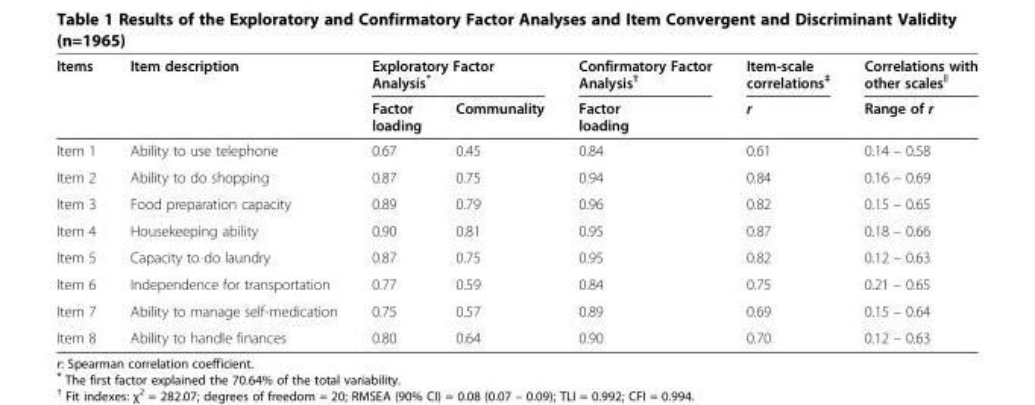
<table><thead><tr><td rowspan="2">Items</td><td rowspan="2">Item description</td><td colspan="2">Exploratory Factor Analysis*</td><td rowspan="2">Confirmatory Factor Analysis<sup>†</sup> Factor loading</td><td rowspan="2">Item-scale correlations<sup>‡</sup> r</td><td rowspan="2">Correlations with other scales<sup>‖</sup> Range of r</td></tr><tr><td>Factor loading</td><td>Communality</td></tr></thead><tbody><tr><td>Item 1</td><td>Ability to use telephone</td><td>0.67</td><td>0.45</td><td>0.84</td><td>0.61</td><td>0.14 – 0.58</td></tr><tr><td>Item 2</td><td>Ability to do shopping</td><td>0.87</td><td>0.75</td><td>0.94</td><td>0.84</td><td>0.16 – 0.69</td></tr><tr><td>Item 3</td><td>Food preparation capacity</td><td>0.89</td><td>0.79</td><td>0.96</td><td>0.82</td><td>0.15 – 0.65</td></tr><tr><td>Item 4</td><td>Housekeeping ability</td><td>0.90</td><td>0.81</td><td>0.95</td><td>0.87</td><td>0.18 – 0.66</td></tr><tr><td>Item 5</td><td>Capacity to do laundry</td><td>0.87</td><td>0.75</td><td>0.95</td><td>0.82</td><td>0.12 – 0.63</td></tr><tr><td>Item 6</td><td>Independence for transportation</td><td>0.77</td><td>0.59</td><td>0.84</td><td>0.75</td><td>0.21 – 0.65</td></tr><tr><td>Item 7</td><td>Ability to manage self-medication</td><td>0.75</td><td>0.57</td><td>0.89</td><td>0.69</td><td>0.15 – 0.64</td></tr><tr><td>Item 8</td><td>Ability to handle finances</td><td>0.80</td><td>0.64</td><td>0.90</td><td>0.70</td><td>0.12 – 0.63</td></tr></tbody></table>